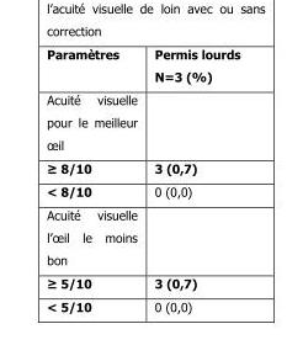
<table><thead><tr><td>Paramètres</td><td>Permis lourds N=3 (%)</td></tr></thead><tbody><tr><td colspan="2">Acuité visuelle pour le meilleur œil</td></tr><tr><td>≥ 8/10</td><td>3 (0,7)</td></tr><tr><td>&lt; 8/10</td><td>0 (0,0)</td></tr><tr><td colspan="2">Acuité visuelle l’œil le moins bon</td></tr><tr><td>≥ 5/10</td><td>3 (0,7)</td></tr><tr><td>&lt; 5/10</td><td>0 (0,0)</td></tr></tbody></table>